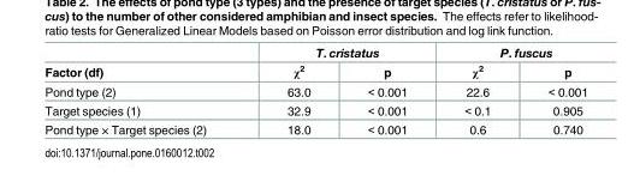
<table><thead><tr><td rowspan="2">Factor (df)</td><td colspan="2">T. cristatus</td><td colspan="2">P. fuscus</td></tr><tr><td>χ<sup>2</sup></td><td>p</td><td>χ<sup>2</sup></td><td>p</td></tr></thead><tbody><tr><td>Pond type (2)</td><td>63.0</td><td>&lt; 0.001</td><td>22.6</td><td>&lt; 0.001</td></tr><tr><td>Target species (1)</td><td>32.9</td><td>&lt; 0.001</td><td>&lt; 0.1</td><td>0.905</td></tr><tr><td>Pond type × Target species (2)</td><td>18.0</td><td>&lt; 0.001</td><td>0.6</td><td>0.740</td></tr></tbody></table>